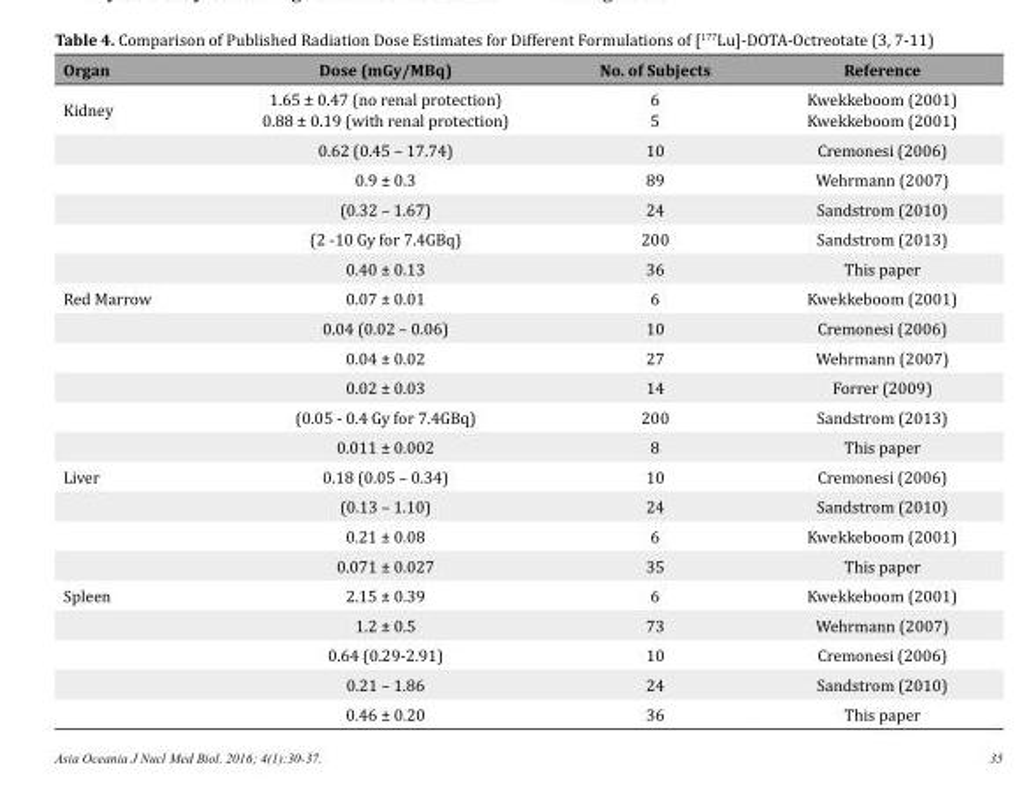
<table><thead><tr><td>Organ</td><td>Dose (mGy/MBq)</td><td>No. of Subjects</td><td>Reference</td></tr></thead><tbody><tr><td rowspan="6">Kidney</td><td>1.65 ± 0.47 (no renal protection) 0.88 ± 0.19 (with renal protection)</td><td>6 5</td><td>Kwekkeboom (2001) Kwekkeboom (2001)</td></tr><tr><td>0.62 (0.45 – 17.74)</td><td>10</td><td>Cremonesi (2006)</td></tr><tr><td>0.9 ± 0.3</td><td>89</td><td>Wehrmann (2007)</td></tr><tr><td>(0.32 – 1.67)</td><td>24</td><td>Sandstrom (2010)</td></tr><tr><td>(2 -10 Gy for 7.4GBq)</td><td>200</td><td>Sandstrom (2013)</td></tr><tr><td>0.40 ± 0.13</td><td>36</td><td>This paper</td></tr><tr><td rowspan="6">Red Marrow</td><td>0.07 ± 0.01</td><td>6</td><td>Kwekkeboom (2001)</td></tr><tr><td>0.04 (0.02 – 0.06)</td><td>10</td><td>Cremonesi (2006)</td></tr><tr><td>0.04 ± 0.02</td><td>27</td><td>Wehrmann (2007)</td></tr><tr><td>0.02 ± 0.03</td><td>14</td><td>Forrer (2009)</td></tr><tr><td>(0.05 - 0.4 Gy for 7.4GBq)</td><td>200</td><td>Sandstrom (2013)</td></tr><tr><td>0.011 ± 0.002</td><td>8</td><td>This paper</td></tr><tr><td rowspan="4">Liver</td><td>0.18 (0.05 – 0.34)</td><td>10</td><td>Cremonesi (2006)</td></tr><tr><td>(0.13 – 1.10)</td><td>24</td><td>Sandstrom (2010)</td></tr><tr><td>0.21 ± 0.08</td><td>6</td><td>Kwekkeboom (2001)</td></tr><tr><td>0.071 ± 0.027</td><td>35</td><td>This paper</td></tr><tr><td rowspan="5">Spleen</td><td>2.15 ± 0.39</td><td>6</td><td>Kwekkeboom (2001)</td></tr><tr><td>1.2 ± 0.5</td><td>73</td><td>Wehrmann (2007)</td></tr><tr><td>0.64 (0.29-2.91)</td><td>10</td><td>Cremonesi (2006)</td></tr><tr><td>0.21 – 1.86</td><td>24</td><td>Sandstrom (2010)</td></tr><tr><td>0.46 ± 0.20</td><td>36</td><td>This paper</td></tr></tbody></table>